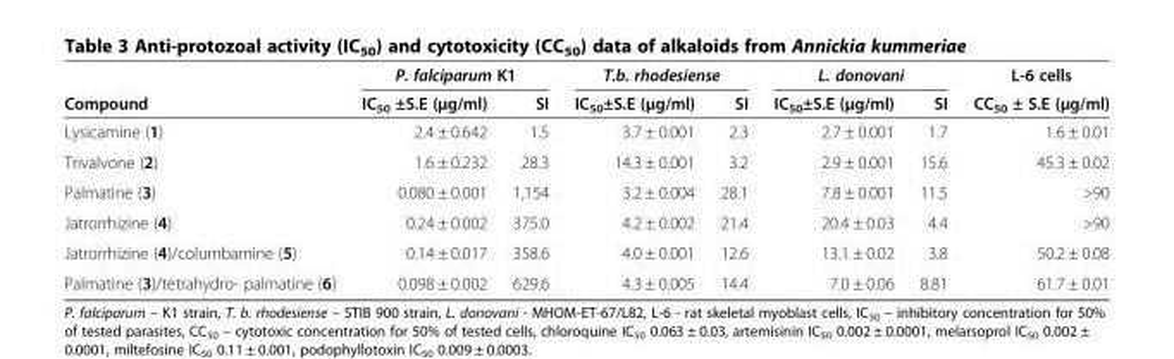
<table><thead><tr><td rowspan="2">Compound</td><td colspan="2">P. falciparum K1</td><td colspan="2">T.b. rhodesiense</td><td colspan="2">L. donovani</td><td rowspan="2">L-6 cells CC<sub>50</sub> ± S.E (μg/ml)</td></tr><tr><td>IC<sub>50</sub> ±S.E (μg/ml)</td><td>SI</td><td>IC<sub>50</sub>±S.E (μg/ml)</td><td>SI</td><td>IC<sub>50</sub>±S.E (μg/ml)</td><td>SI</td></tr></thead><tbody><tr><td>Lysicamine (1)</td><td>2.4 ± 0.642</td><td>1.5</td><td>3.7 ± 0.001</td><td>2.3</td><td>2.7 ± 0.001</td><td>1.7</td><td>1.6 ± 0.01</td></tr><tr><td>Trivalvone (2)</td><td>1.6 ± 0.232</td><td>28.3</td><td>14.3 ± 0.001</td><td>3.2</td><td>2.9 ± 0.001</td><td>15.6</td><td>45.3 ± 0.02</td></tr><tr><td>Palmatine (3)</td><td>0.080 ± 0.001</td><td>1,154</td><td>3.2 ± 0.004</td><td>28.1</td><td>7.8 ± 0.001</td><td>11.5</td><td>&gt;90</td></tr><tr><td>Jatrorrhizine (4)</td><td>0.24 ± 0.002</td><td>375.0</td><td>4.2 ± 0.002</td><td>21.4</td><td>20.4 ± 0.03</td><td>4.4</td><td>&gt;90</td></tr><tr><td>Jatrorrhizine (4)/columbamine (5)</td><td>0.14 ± 0.017</td><td>358.6</td><td>4.0 ± 0.001</td><td>12.6</td><td>13.1 ± 0.02</td><td>3.8</td><td>50.2 ± 0.08</td></tr><tr><td>Palmatine (3)/tetrahydro- palmatine (6)</td><td>0.098 ± 0.002</td><td>629.6</td><td>4.3 ± 0.005</td><td>14.4</td><td>7.0 ± 0.06</td><td>8.81</td><td>61.7 ± 0.01</td></tr></tbody></table>